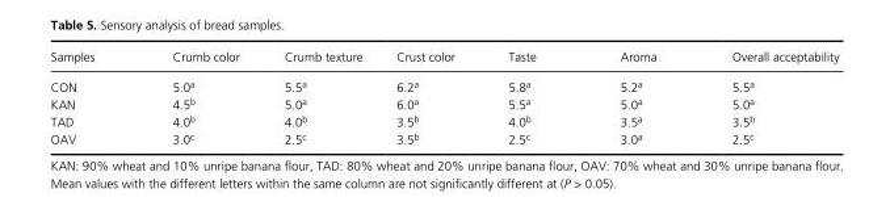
<table><thead><tr><td>Samples</td><td>Crumb color</td><td>Crumb texture</td><td>Crust color</td><td>Taste</td><td>Aroma</td><td>Overall acceptability</td></tr></thead><tbody><tr><td>CON</td><td>5.0<sup>a</sup></td><td>5.5<sup>a</sup></td><td>6.2<sup>a</sup></td><td>5.8<sup>a</sup></td><td>5.2<sup>a</sup></td><td>5.5<sup>a</sup></td></tr><tr><td>KAN</td><td>4.5<sup>b</sup></td><td>5.0<sup>a</sup></td><td>6.0<sup>a</sup></td><td>5.5<sup>a</sup></td><td>5.0<sup>a</sup></td><td>5.0<sup>a</sup></td></tr><tr><td>TAD</td><td>4.0<sup>b</sup></td><td>4.0<sup>b</sup></td><td>3.5<sup>b</sup></td><td>4.0<sup>b</sup></td><td>3.5<sup>a</sup></td><td>3.5<sup>b</sup></td></tr><tr><td>OAV</td><td>3.0<sup>c</sup></td><td>2.5<sup>c</sup></td><td>3.5<sup>b</sup></td><td>2.5<sup>c</sup></td><td>3.0<sup>a</sup></td><td>2.5<sup>c</sup></td></tr></tbody></table>